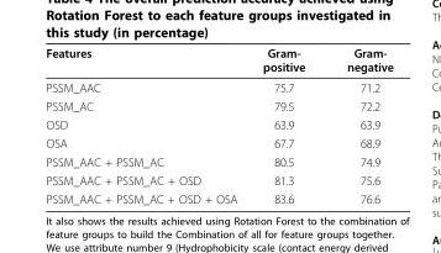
<table><thead><tr><td>Features</td><td>Gram- positive</td><td>Gram- negative</td></tr></thead><tbody><tr><td>PSSM_AAC</td><td>75.7</td><td>71.2</td></tr><tr><td>PSSM_AC</td><td>79.5</td><td>72.2</td></tr><tr><td>OSD</td><td>63.9</td><td>63.9</td></tr><tr><td>OSA</td><td>67.7</td><td>68.9</td></tr><tr><td>PSSM_AAC + PSSM_AC</td><td>80.5</td><td>74.9</td></tr><tr><td>PSSM_AAC + PSSM_AC + OSD</td><td>81.3</td><td>75.6</td></tr><tr><td>PSSM_AAC + PSSM_AC + OSD + OSA</td><td>83.6</td><td>76.6</td></tr></tbody></table>